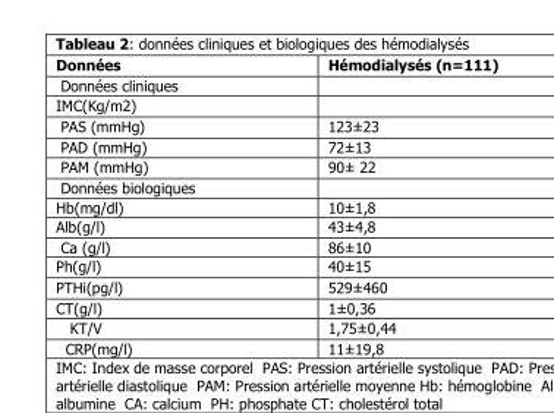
<table><thead><tr><td>Données</td><td>Hémodialysés (n=111)</td></tr></thead><tbody><tr><td colspan="2">Données cliniques</td></tr><tr><td colspan="2">IMC(Kg/m2)</td></tr><tr><td>PAS (mmHg)</td><td>123±23</td></tr><tr><td>PAD (mmHg)</td><td>72±13</td></tr><tr><td>PAM (mmHg)</td><td>90± 22</td></tr><tr><td colspan="2">Données biologiques</td></tr><tr><td>Hb(mg/dl)</td><td>10±1,8</td></tr><tr><td>Alb(g/l)</td><td>43±4,8</td></tr><tr><td>Ca (g/l)</td><td>86±10</td></tr><tr><td>Ph(g/l)</td><td>40±15</td></tr><tr><td>PTHi(pg/l)</td><td>529±460</td></tr><tr><td>CT(g/l)</td><td>1±0,36</td></tr><tr><td>KT/V</td><td>1,75±0,44</td></tr><tr><td>CRP(mg/l)</td><td>11±19,8</td></tr></tbody></table>